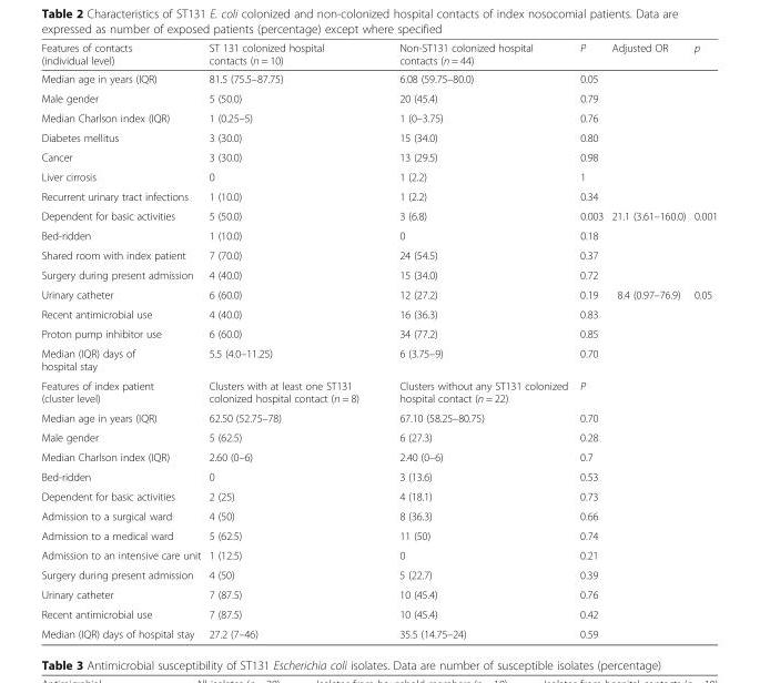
<table><thead><tr><td>Features of contacts (individual level)</td><td>ST 131 colonized hospital contacts (n = 10)</td><td>Non-ST131 colonized hospital contacts (n = 44)</td><td>P</td><td>Adjusted OR</td><td>p</td></tr></thead><tbody><tr><td>Median age in years (IQR)</td><td>81.5 (75.5–87.75)</td><td>6.08 (59.75–80.0)</td><td>0.05</td><td></td><td></td></tr><tr><td>Male gender</td><td>5 (50.0)</td><td>20 (45.4)</td><td>0.79</td><td></td><td></td></tr><tr><td>Median Charlson index (IQR)</td><td>1 (0.25–5)</td><td>1 (0–3.75)</td><td>0.76</td><td></td><td></td></tr><tr><td>Diabetes mellitus</td><td>3 (30.0)</td><td>15 (34.0)</td><td>0.80</td><td></td><td></td></tr><tr><td>Cancer</td><td>3 (30.0)</td><td>13 (29.5)</td><td>0.98</td><td></td><td></td></tr><tr><td>Liver cirrosis</td><td>0</td><td>1 (2.2)</td><td>1</td><td></td><td></td></tr><tr><td>Recurrent urinary tract infections</td><td>1 (10.0)</td><td>1 (2.2)</td><td>0.34</td><td></td><td></td></tr><tr><td>Dependent for basic activities</td><td>5 (50.0)</td><td>3 (6.8)</td><td>0.003</td><td>21.1 (3.61–160.0)</td><td>0.001</td></tr><tr><td>Bed-ridden</td><td>1 (10.0)</td><td>0</td><td>0.18</td><td></td><td></td></tr><tr><td>Shared room with index patient</td><td>7 (70.0)</td><td>24 (54.5)</td><td>0.37</td><td></td><td></td></tr><tr><td>Surgery during present admission</td><td>4 (40.0)</td><td>15 (34.0)</td><td>0.72</td><td></td><td></td></tr><tr><td>Urinary catheter</td><td>6 (60.0)</td><td>12 (27.2)</td><td>0.19</td><td>8.4 (0.97–76.9)</td><td>0.05</td></tr><tr><td>Recent antimicrobial use</td><td>4 (40.0)</td><td>16 (36.3)</td><td>0.83</td><td></td><td></td></tr><tr><td>Proton pump inhibitor use</td><td>6 (60.0)</td><td>34 (77.2)</td><td>0.85</td><td></td><td></td></tr><tr><td>Median (IQR) days of hospital stay</td><td>5.5 (4.0–11.25)</td><td>6 (3.75–9)</td><td>0.70</td><td></td><td></td></tr><tr><td>Features of index patient (cluster level)</td><td>Clusters with at least one ST131 colonized hospital contact (n = 8)</td><td>Clusters without any ST131 colonized hospital contact (n = 22)</td><td>P</td><td></td><td></td></tr><tr><td>Median age in years (IQR)</td><td>62.50 (52.75–78)</td><td>67.10 (58.25–80.75)</td><td>0.70</td><td></td><td></td></tr><tr><td>Male gender</td><td>5 (62.5)</td><td>6 (27.3)</td><td>0.28</td><td></td><td></td></tr><tr><td>Median Charlson index (IQR)</td><td>2.60 (0–6)</td><td>2.40 (0–6)</td><td>0.7</td><td></td><td></td></tr><tr><td>Bed-ridden</td><td>0</td><td>3 (13.6)</td><td>0.53</td><td></td><td></td></tr><tr><td>Dependent for basic activities</td><td>2 (25)</td><td>4 (18.1)</td><td>0.73</td><td></td><td></td></tr><tr><td>Admission to a surgical ward</td><td>4 (50)</td><td>8 (36.3)</td><td>0.66</td><td></td><td></td></tr><tr><td>Admission to a medical ward</td><td>5 (62.5)</td><td>11 (50)</td><td>0.74</td><td></td><td></td></tr><tr><td>Admission to an intensive care unit</td><td>1 (12.5)</td><td>0</td><td>0.21</td><td></td><td></td></tr><tr><td>Surgery during present admission</td><td>4 (50)</td><td>5 (22.7)</td><td>0.39</td><td></td><td></td></tr><tr><td>Urinary catheter</td><td>7 (87.5)</td><td>10 (45.4)</td><td>0.76</td><td></td><td></td></tr><tr><td>Recent antimicrobial use</td><td>7 (87.5)</td><td>10 (45.4)</td><td>0.42</td><td></td><td></td></tr><tr><td>Median (IQR) days of hospital stay</td><td>27.2 (7–46)</td><td>35.5 (14.75–24)</td><td>0.59</td><td></td><td></td></tr></tbody></table>